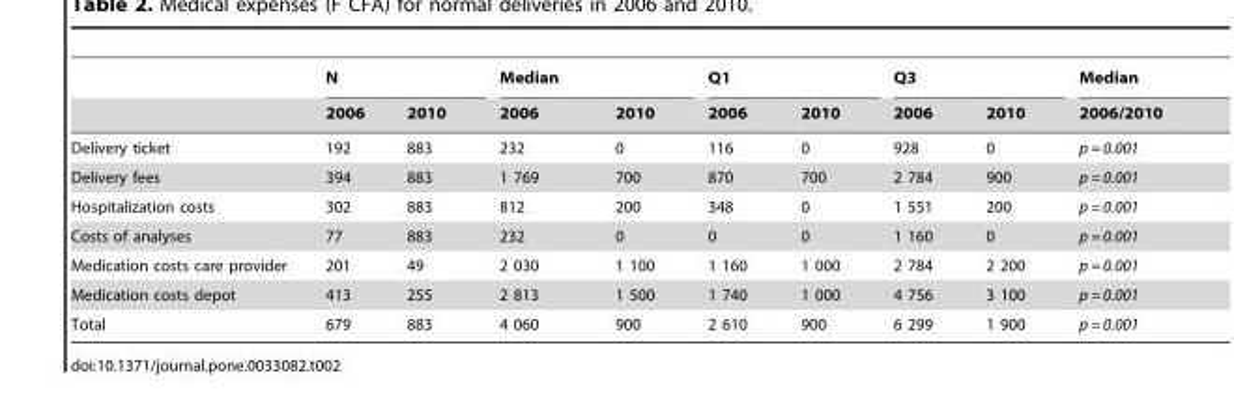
<table><thead><tr><td rowspan="2"></td><td colspan="2">N</td><td colspan="2">Median</td><td colspan="2">Q1</td><td colspan="2">Q3</td><td rowspan="2">Median 2006/2010</td></tr><tr><td>2006</td><td>2010</td><td>2006</td><td>2010</td><td>2006</td><td>2010</td><td>2006</td><td>2010</td></tr></thead><tbody><tr><td>Delivery ticket</td><td>192</td><td>883</td><td>232</td><td>0</td><td>116</td><td>0</td><td>928</td><td>0</td><td>p = 0.001</td></tr><tr><td>Delivery fees</td><td>394</td><td>883</td><td>1 769</td><td>700</td><td>870</td><td>700</td><td>2 784</td><td>900</td><td>p = 0.001</td></tr><tr><td>Hospitalization costs</td><td>302</td><td>883</td><td>812</td><td>200</td><td>348</td><td>0</td><td>1 551</td><td>200</td><td>p = 0.001</td></tr><tr><td>Costs of analyses</td><td>77</td><td>883</td><td>232</td><td>0</td><td>0</td><td>0</td><td>1 160</td><td>0</td><td>p = 0.001</td></tr><tr><td>Medication costs care provider</td><td>201</td><td>49</td><td>2 030</td><td>1 100</td><td>1 160</td><td>1 000</td><td>2 784</td><td>2 200</td><td>p = 0.001</td></tr><tr><td>Medication costs depot</td><td>413</td><td>255</td><td>2 813</td><td>1 500</td><td>1 740</td><td>1 000</td><td>4 756</td><td>3 100</td><td>p = 0.001</td></tr><tr><td>Total</td><td>679</td><td>883</td><td>4 060</td><td>900</td><td>2 610</td><td>900</td><td>6 299</td><td>1 900</td><td>p = 0.001</td></tr></tbody></table>